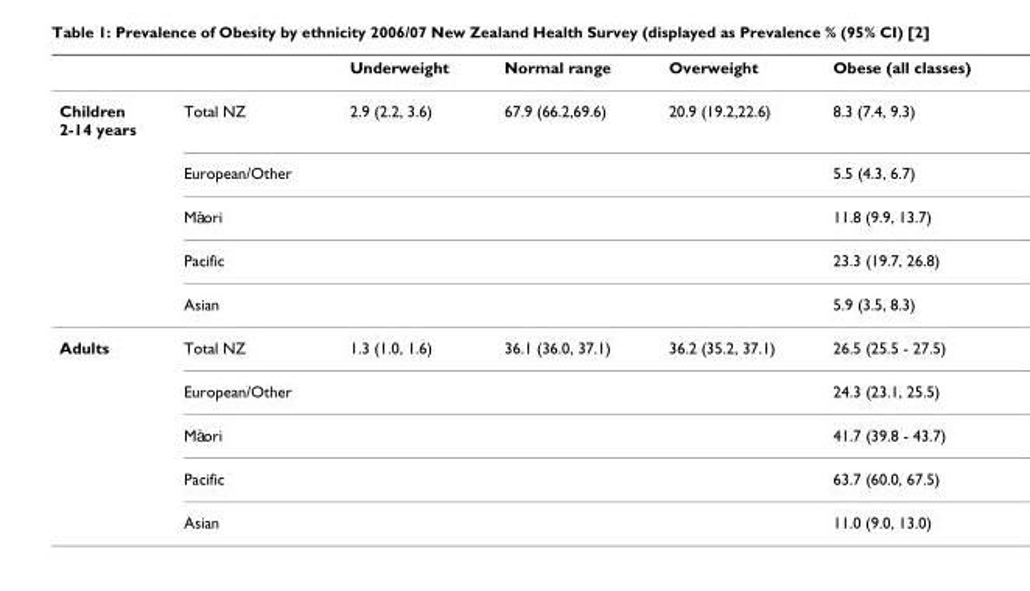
<table><thead><tr><td></td><td></td><td>Underweight</td><td>Normal range</td><td>Overweight</td><td>Obese (all classes)</td></tr></thead><tbody><tr><td rowspan="5">Children 2-14 years</td><td>Total NZ</td><td>2.9 (2.2, 3.6)</td><td>67.9 (66.2,69.6)</td><td>20.9 (19.2,22.6)</td><td>8.3 (7.4, 9.3)</td></tr><tr><td>European/Other</td><td></td><td></td><td></td><td>5.5 (4.3, 6.7)</td></tr><tr><td>Ma¯ori</td><td></td><td></td><td></td><td>11.8 (9.9, 13.7)</td></tr><tr><td>Pacific</td><td></td><td></td><td></td><td>23.3 (19.7, 26.8)</td></tr><tr><td>Asian</td><td></td><td></td><td></td><td>5.9 (3.5, 8.3)</td></tr><tr><td rowspan="5">Adults</td><td>Total NZ</td><td>1.3 (1.0, 1.6)</td><td>36.1 (36.0, 37.1)</td><td>36.2 (35.2, 37.1)</td><td>26.5 (25.5 - 27.5)</td></tr><tr><td>European/Other</td><td></td><td></td><td></td><td>24.3 (23.1, 25.5)</td></tr><tr><td>Ma¯ori</td><td></td><td></td><td></td><td>41.7 (39.8 - 43.7)</td></tr><tr><td>Pacific</td><td></td><td></td><td></td><td>63.7 (60.0, 67.5)</td></tr><tr><td>Asian</td><td></td><td></td><td></td><td>11.0 (9.0, 13.0)</td></tr></tbody></table>